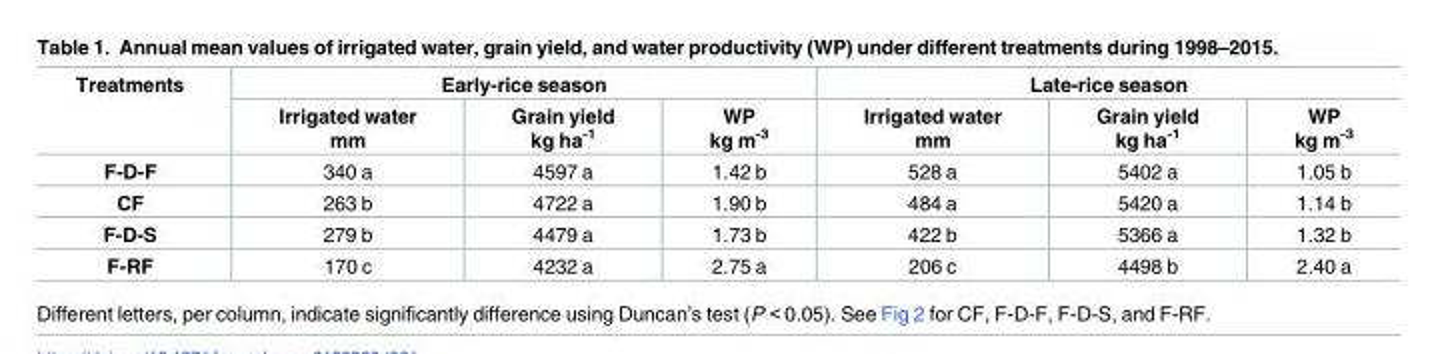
<table><thead><tr><td rowspan="2">Treatments</td><td colspan="3">Early-rice season</td><td colspan="3">Late-rice season</td></tr><tr><td>Irrigated water mm</td><td>Grain yield kg ha<sup>-1</sup></td><td>WP kg m<sup>-3</sup></td><td>Irrigated water mm</td><td>Grain yield kg ha<sup>-1</sup></td><td>WP kg m<sup>-3</sup></td></tr></thead><tbody><tr><td>F-D-F</td><td>340 a</td><td>4597 a</td><td>1.42 b</td><td>528 a</td><td>5402 a</td><td>1.05 b</td></tr><tr><td>CF</td><td>263 b</td><td>4722 a</td><td>1.90 b</td><td>484 a</td><td>5420 a</td><td>1.14 b</td></tr><tr><td>F-D-S</td><td>279 b</td><td>4479 a</td><td>1.73 b</td><td>422 b</td><td>5366 a</td><td>1.32 b</td></tr><tr><td>F-RF</td><td>170 c</td><td>4232 a</td><td>2.75 a</td><td>206 c</td><td>4498 b</td><td>2.40 a</td></tr></tbody></table>